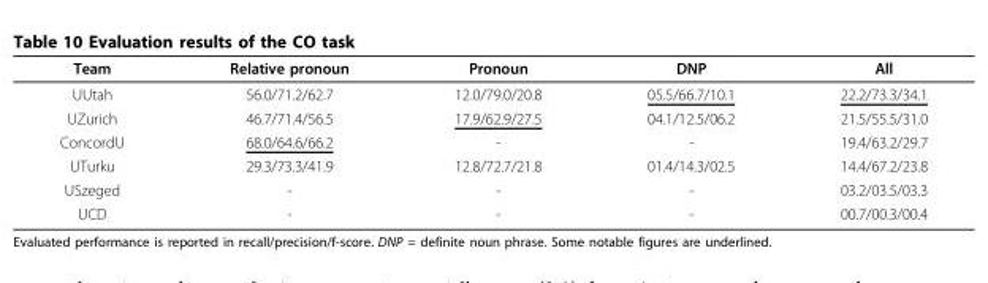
<table><thead><tr><td>Team</td><td>Relative pronoun</td><td>Pronoun</td><td>DNP</td><td>All</td></tr></thead><tbody><tr><td>UUtah</td><td>56.0/71.2/62.7</td><td>12.0/79.0/20.8</td><td>05.5/66.7/10.1</td><td>22.2/73.3/34.1</td></tr><tr><td>UZurich</td><td>46.7/71.4/56.5</td><td>17.9/62.9/27.5</td><td>04.1/12.5/06.2</td><td>21.5/55.5/31.0</td></tr><tr><td>ConcordU</td><td>68.0/64.6/66.2</td><td>-</td><td>-</td><td>19.4/63.2/29.7</td></tr><tr><td>UTurku</td><td>29.3/73.3/41.9</td><td>12.8/72.7/21.8</td><td>01.4/14.3/02.5</td><td>14.4/67.2/23.8</td></tr><tr><td>USzeged</td><td>-</td><td>-</td><td>-</td><td>03.2/03.5/03.3</td></tr><tr><td>UCD</td><td>-</td><td>-</td><td>-</td><td>00.7/00.3/00.4</td></tr></tbody></table>